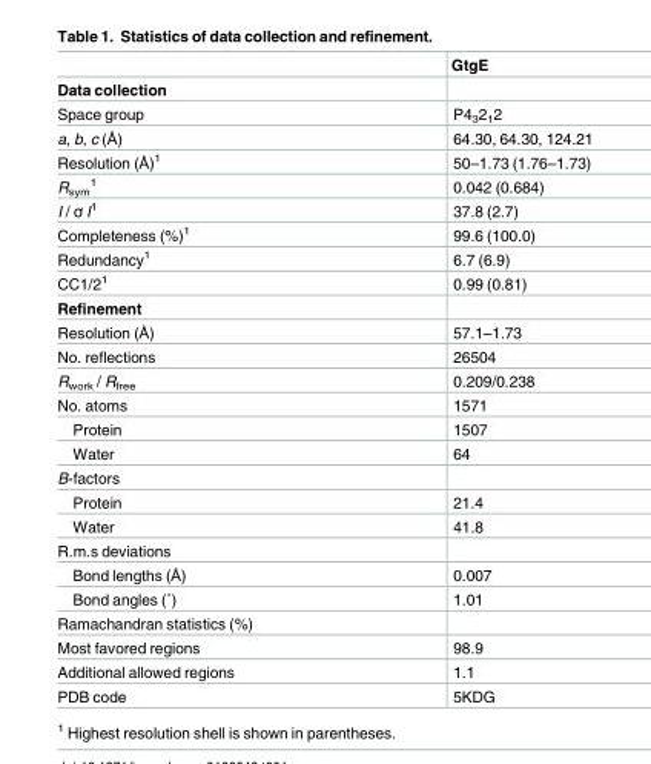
<table><thead><tr><td></td><td>GtgE</td></tr></thead><tbody><tr><td colspan="2">Data collection</td></tr><tr><td>Space group</td><td>P4<sub>3</sub>2<sub>1</sub>2</td></tr><tr><td>a, b, c (Å)</td><td>64.30, 64.30, 124.21</td></tr><tr><td>Resolution (Å)<sup>1</sup></td><td>50–1.73 (1.76–1.73)</td></tr><tr><td>R<sub>sym</sub> <sup>1</sup></td><td>0.042 (0.684)</td></tr><tr><td>I / ơ I<sup>1</sup></td><td>37.8 (2.7)</td></tr><tr><td>Completeness (%)<sup>1</sup></td><td>99.6 (100.0)</td></tr><tr><td>Redundancy<sup>1</sup></td><td>6.7 (6.9)</td></tr><tr><td>CC1/2<sup>1</sup></td><td>0.99 (0.81)</td></tr><tr><td colspan="2">Refinement</td></tr><tr><td>Resolution (Å)</td><td>57.1–1.73</td></tr><tr><td>No. reflections</td><td>26504</td></tr><tr><td>R<sub>work</sub> / R<sub>free</sub></td><td>0.209/0.238</td></tr><tr><td>No. atoms</td><td>1571</td></tr><tr><td>Protein</td><td>1507</td></tr><tr><td>Water</td><td>64</td></tr><tr><td colspan="2">B-factors</td></tr><tr><td>Protein</td><td>21.4</td></tr><tr><td>Water</td><td>41.8</td></tr><tr><td colspan="2">R.m.s deviations</td></tr><tr><td>Bond lengths (Å)</td><td>0.007</td></tr><tr><td>Bond angles (˚)</td><td>1.01</td></tr><tr><td colspan="2">Ramachandran statistics (%)</td></tr><tr><td>Most favored regions</td><td>98.9</td></tr><tr><td>Additional allowed regions</td><td>1.1</td></tr><tr><td>PDB code</td><td>5KDG</td></tr></tbody></table>